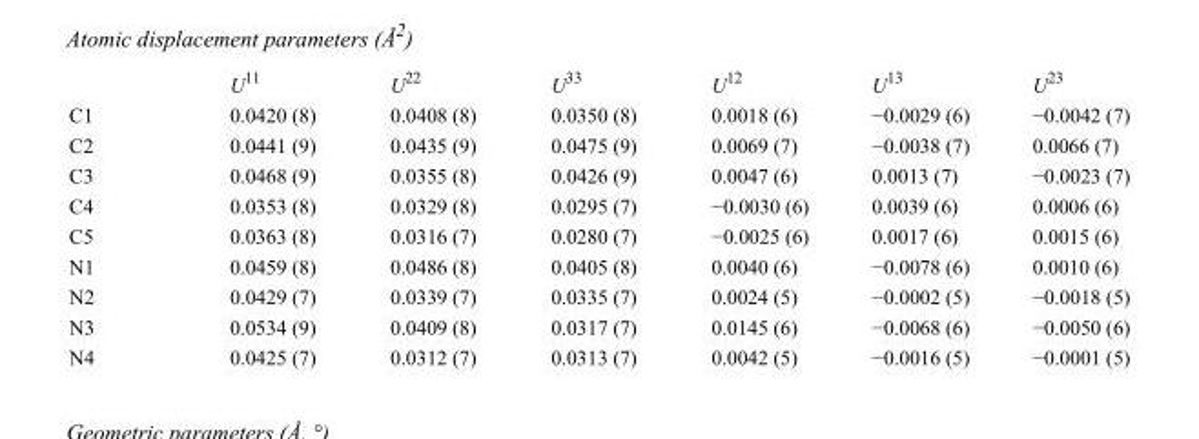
<table><thead><tr><td></td><td>U<sup>11</sup></td><td>U<sup>22</sup></td><td>U<sup>33</sup></td><td>U<sup>12</sup></td><td>U<sup>13</sup></td><td>U<sup>23</sup></td></tr></thead><tbody><tr><td>C1</td><td>0.0420 (8)</td><td>0.0408 (8)</td><td>0.0350 (8)</td><td>0.0018 (6)</td><td>−0.0029 (6)</td><td>−0.0042 (7)</td></tr><tr><td>C2</td><td>0.0441 (9)</td><td>0.0435 (9)</td><td>0.0475 (9)</td><td>0.0069 (7)</td><td>−0.0038 (7)</td><td>0.0066 (7)</td></tr><tr><td>C3</td><td>0.0468 (9)</td><td>0.0355 (8)</td><td>0.0426 (9)</td><td>0.0047 (6)</td><td>0.0013 (7)</td><td>−0.0023 (7)</td></tr><tr><td>C4</td><td>0.0353 (8)</td><td>0.0329 (8)</td><td>0.0295 (7)</td><td>−0.0030 (6)</td><td>0.0039 (6)</td><td>0.0006 (6)</td></tr><tr><td>C5</td><td>0.0363 (8)</td><td>0.0316 (7)</td><td>0.0280 (7)</td><td>−0.0025 (6)</td><td>0.0017 (6)</td><td>0.0015 (6)</td></tr><tr><td>N1</td><td>0.0459 (8)</td><td>0.0486 (8)</td><td>0.0405 (8)</td><td>0.0040 (6)</td><td>−0.0078 (6)</td><td>0.0010 (6)</td></tr><tr><td>N2</td><td>0.0429 (7)</td><td>0.0339 (7)</td><td>0.0335 (7)</td><td>0.0024 (5)</td><td>−0.0002 (5)</td><td>−0.0018 (5)</td></tr><tr><td>N3</td><td>0.0534 (9)</td><td>0.0409 (8)</td><td>0.0317 (7)</td><td>0.0145 (6)</td><td>−0.0068 (6)</td><td>−0.0050 (6)</td></tr><tr><td>N4</td><td>0.0425 (7)</td><td>0.0312 (7)</td><td>0.0313 (7)</td><td>0.0042 (5)</td><td>−0.0016 (5)</td><td>−0.0001 (5)</td></tr></tbody></table>